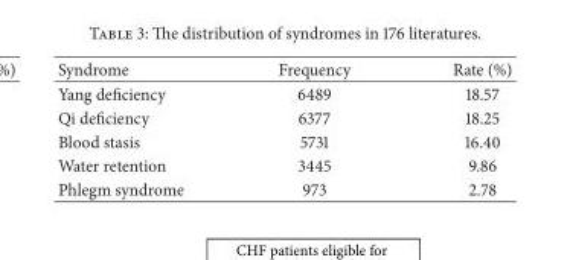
<table><thead><tr><td>Syndrome</td><td>Frequency</td><td>Rate (%)</td></tr></thead><tbody><tr><td>Yang deficiency</td><td>6489</td><td>18.57</td></tr><tr><td>Qi deficiency</td><td>6377</td><td>18.25</td></tr><tr><td>Blood stasis</td><td>5731</td><td>16.40</td></tr><tr><td>Water retention</td><td>3445</td><td>9.86</td></tr><tr><td>Phlegm syndrome</td><td>973</td><td>2.78</td></tr></tbody></table>